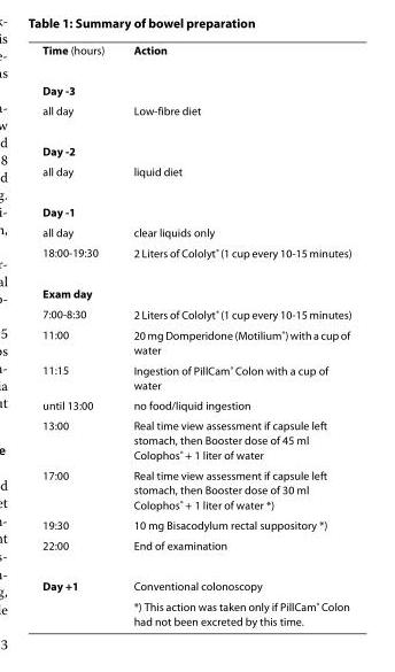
<table><tbody><tr><td>Time (hours)</td><td>Action</td></tr><tr><td colspan="2">Day -3</td></tr><tr><td>all day</td><td>Low-fibre diet</td></tr><tr><td colspan="2">Day -2</td></tr><tr><td>all day</td><td>liquid diet</td></tr><tr><td colspan="2">Day -1</td></tr><tr><td>all day</td><td>clear liquids only</td></tr><tr><td>18:00-19:30</td><td>2 Liters of Cololyt<sup>®</sup> (1 cup every 10-15 minutes)</td></tr><tr><td colspan="2">Exam day</td></tr><tr><td>7:00-8:30</td><td>2 Liters of Cololyt<sup>®</sup> (1 cup every 10-15 minutes)</td></tr><tr><td>11:00</td><td>20 mg Domperidone (Motilium<sup>®</sup>) with a cup of water</td></tr><tr><td>11:15</td><td>Ingestion of PillCam<sup>®</sup> Colon with a cup of water</td></tr><tr><td>until 13:00</td><td>no food/liquid ingestion</td></tr><tr><td>13:00</td><td>Real time view assessment if capsule left stomach, then Booster dose of 45 ml Colophos<sup>®</sup> + 1 liter of water</td></tr><tr><td>17:00</td><td>Real time view assessment if capsule left stomach, then Booster dose of 30 ml Colophos<sup>®</sup> + 1 liter of water *)</td></tr><tr><td>19:30</td><td>10 mg Bisacodylum rectal suppository *)</td></tr><tr><td>22:00</td><td>End of examination</td></tr><tr><td rowspan="2">Day +1</td><td>Conventional colonoscopy</td></tr><tr><td>*) This action was taken only if PillCam<sup>®</sup> Colon had not been excreted by this time.</td></tr></tbody></table>